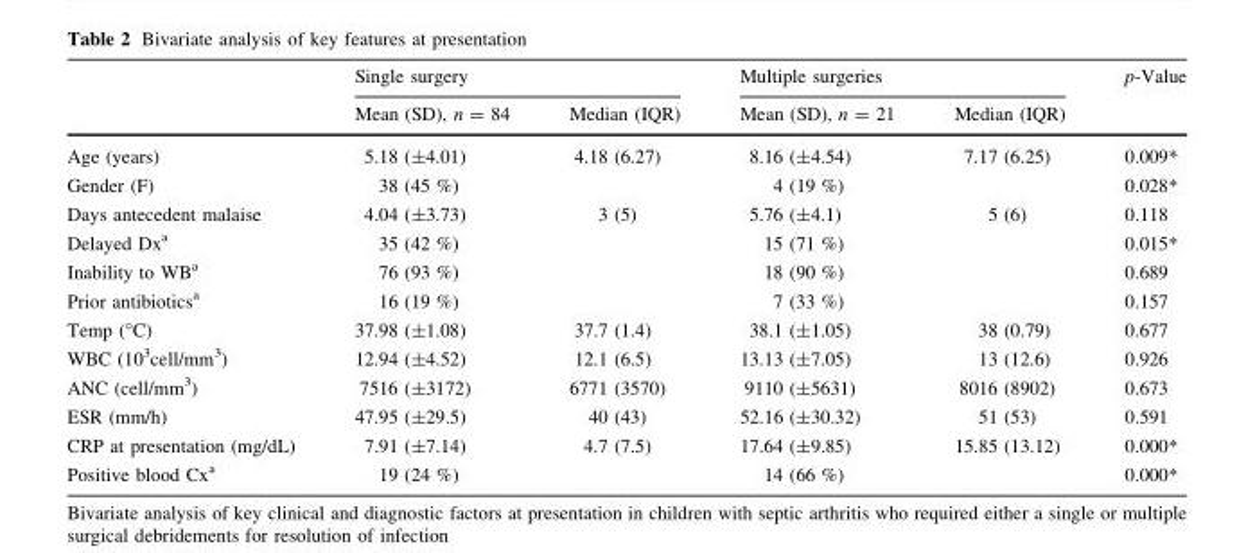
<table><thead><tr><td rowspan="2"></td><td colspan="2">Single surgery</td><td colspan="2">Multiple surgeries</td><td rowspan="2">p-Value</td></tr><tr><td>Mean (SD), n = 84</td><td>Median (IQR)</td><td>Mean (SD), n = 21</td><td>Median (IQR)</td></tr></thead><tbody><tr><td>Age (years)</td><td>5.18 (±4.01)</td><td>4.18 (6.27)</td><td>8.16 (±4.54)</td><td>7.17 (6.25)</td><td>0.009*</td></tr><tr><td>Gender (F)</td><td>38 (45 %)</td><td></td><td>4 (19 %)</td><td></td><td>0.028*</td></tr><tr><td>Days antecedent malaise</td><td>4.04 (±3.73)</td><td>3 (5)</td><td>5.76 (±4.1)</td><td>5 (6)</td><td>0.118</td></tr><tr><td>Delayed Dx<sup>a</sup></td><td>35 (42 %)</td><td></td><td>15 (71 %)</td><td></td><td>0.015*</td></tr><tr><td>Inability to WB<sup>a</sup></td><td>76 (93 %)</td><td></td><td>18 (90 %)</td><td></td><td>0.689</td></tr><tr><td>Prior antibiotics<sup>a</sup></td><td>16 (19 %)</td><td></td><td>7 (33 %)</td><td></td><td>0.157</td></tr><tr><td>Temp (°C)</td><td>37.98 (±1.08)</td><td>37.7 (1.4)</td><td>38.1 (±1.05)</td><td>38 (0.79)</td><td>0.677</td></tr><tr><td>WBC (10<sup>3</sup>cell/mm<sup>3</sup>)</td><td>12.94 (±4.52)</td><td>12.1 (6.5)</td><td>13.13 (±7.05)</td><td>13 (12.6)</td><td>0.926</td></tr><tr><td>ANC (cell/mm<sup>3</sup>)</td><td>7516 (±3172)</td><td>6771 (3570)</td><td>9110 (±5631)</td><td>8016 (8902)</td><td>0.673</td></tr><tr><td>ESR (mm/h)</td><td>47.95 (±29.5)</td><td>40 (43)</td><td>52.16 (±30.32)</td><td>51 (53)</td><td>0.591</td></tr><tr><td>CRP at presentation (mg/dL)</td><td>7.91 (±7.14)</td><td>4.7 (7.5)</td><td>17.64 (±9.85)</td><td>15.85 (13.12)</td><td>0.000*</td></tr><tr><td>Positive blood Cx<sup>a</sup></td><td>19 (24 %)</td><td></td><td>14 (66 %)</td><td></td><td>0.000*</td></tr></tbody></table>